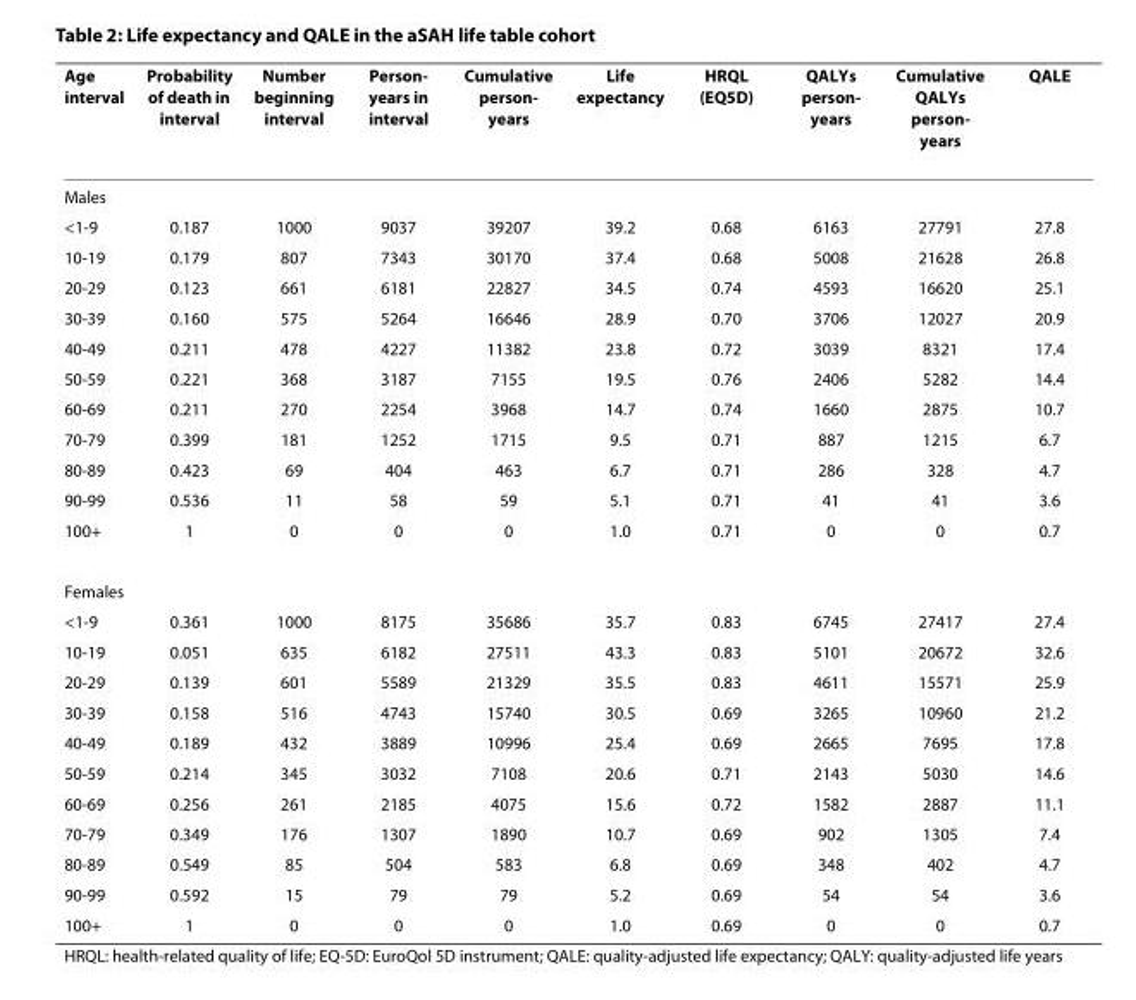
<table><thead><tr><td>Age interval</td><td>Probability of death in interval</td><td>Number beginning interval</td><td>Person- years in interval</td><td>Cumulative person- years</td><td>Life expectancy</td><td>HRQL (EQ5D)</td><td>QALYs person- years</td><td>Cumulative QALYs person- years</td><td>QALE</td></tr></thead><tbody><tr><td colspan="10">Males</td></tr><tr><td>&lt;1-9</td><td>0.187</td><td>1000</td><td>9037</td><td>39207</td><td>39.2</td><td>0.68</td><td>6163</td><td>27791</td><td>27.8</td></tr><tr><td>10-19</td><td>0.179</td><td>807</td><td>7343</td><td>30170</td><td>37.4</td><td>0.68</td><td>5008</td><td>21628</td><td>26.8</td></tr><tr><td>20-29</td><td>0.123</td><td>661</td><td>6181</td><td>22827</td><td>34.5</td><td>0.74</td><td>4593</td><td>16620</td><td>25.1</td></tr><tr><td>30-39</td><td>0.160</td><td>575</td><td>5264</td><td>16646</td><td>28.9</td><td>0.70</td><td>3706</td><td>12027</td><td>20.9</td></tr><tr><td>40-49</td><td>0.211</td><td>478</td><td>4227</td><td>11382</td><td>23.8</td><td>0.72</td><td>3039</td><td>8321</td><td>17.4</td></tr><tr><td>50-59</td><td>0.221</td><td>368</td><td>3187</td><td>7155</td><td>19.5</td><td>0.76</td><td>2406</td><td>5282</td><td>14.4</td></tr><tr><td>60-69</td><td>0.211</td><td>270</td><td>2254</td><td>3968</td><td>14.7</td><td>0.74</td><td>1660</td><td>2875</td><td>10.7</td></tr><tr><td>70-79</td><td>0.399</td><td>181</td><td>1252</td><td>1715</td><td>9.5</td><td>0.71</td><td>887</td><td>1215</td><td>6.7</td></tr><tr><td>80-89</td><td>0.423</td><td>69</td><td>404</td><td>463</td><td>6.7</td><td>0.71</td><td>286</td><td>328</td><td>4.7</td></tr><tr><td>90-99</td><td>0.536</td><td>11</td><td>58</td><td>59</td><td>5.1</td><td>0.71</td><td>41</td><td>41</td><td>3.6</td></tr><tr><td>100+</td><td>1</td><td>0</td><td>0</td><td>0</td><td>1.0</td><td>0.71</td><td>0</td><td>0</td><td>0.7</td></tr><tr><td colspan="10">Females</td></tr><tr><td>&lt;1-9</td><td>0.361</td><td>1000</td><td>8175</td><td>35686</td><td>35.7</td><td>0.83</td><td>6745</td><td>27417</td><td>27.4</td></tr><tr><td>10-19</td><td>0.051</td><td>635</td><td>6182</td><td>27511</td><td>43.3</td><td>0.83</td><td>5101</td><td>20672</td><td>32.6</td></tr><tr><td>20-29</td><td>0.139</td><td>601</td><td>5589</td><td>21329</td><td>35.5</td><td>0.83</td><td>4611</td><td>15571</td><td>25.9</td></tr><tr><td>30-39</td><td>0.158</td><td>516</td><td>4743</td><td>15740</td><td>30.5</td><td>0.69</td><td>3265</td><td>10960</td><td>21.2</td></tr><tr><td>40-49</td><td>0.189</td><td>432</td><td>3889</td><td>10996</td><td>25.4</td><td>0.69</td><td>2665</td><td>7695</td><td>17.8</td></tr><tr><td>50-59</td><td>0.214</td><td>345</td><td>3032</td><td>7108</td><td>20.6</td><td>0.71</td><td>2143</td><td>5030</td><td>14.6</td></tr><tr><td>60-69</td><td>0.256</td><td>261</td><td>2185</td><td>4075</td><td>15.6</td><td>0.72</td><td>1582</td><td>2887</td><td>11.1</td></tr><tr><td>70-79</td><td>0.349</td><td>176</td><td>1307</td><td>1890</td><td>10.7</td><td>0.69</td><td>902</td><td>1305</td><td>7.4</td></tr><tr><td>80-89</td><td>0.549</td><td>85</td><td>504</td><td>583</td><td>6.8</td><td>0.69</td><td>348</td><td>402</td><td>4.7</td></tr><tr><td>90-99</td><td>0.592</td><td>15</td><td>79</td><td>79</td><td>5.2</td><td>0.69</td><td>54</td><td>54</td><td>3.6</td></tr><tr><td>100+</td><td>1</td><td>0</td><td>0</td><td>0</td><td>1.0</td><td>0.69</td><td>0</td><td>0</td><td>0.7</td></tr></tbody></table>